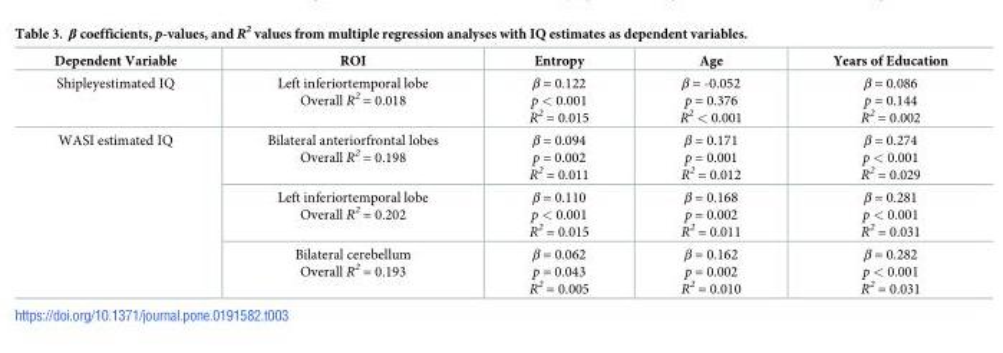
<table><thead><tr><td>Dependent Variable</td><td>ROI</td><td>Entropy</td><td>Age</td><td>Years of Education</td></tr></thead><tbody><tr><td>Shipleyestimated IQ</td><td>Left inferiortemporal lobe Overall R<sup>2</sup> = 0.018</td><td>β = 0.122 p &lt; 0.001 R<sup>2</sup> = 0.015</td><td>β = -0.052 p = 0.376 R<sup>2</sup> &lt; 0.001</td><td>β = 0.086 p = 0.144 R<sup>2</sup> = 0.002</td></tr><tr><td rowspan="3">WASI estimated IQ</td><td>Bilateral anteriorfrontal lobes Overall R<sup>2</sup> = 0.198</td><td>β = 0.094 p = 0.002 R<sup>2</sup> = 0.011</td><td>β = 0.171 p = 0.001 R<sup>2</sup> = 0.012</td><td>β = 0.274 p &lt; 0.001 R<sup>2</sup> = 0.029</td></tr><tr><td>Left inferiortemporal lobe Overall R<sup>2</sup> = 0.202</td><td>β = 0.110 p &lt; 0.001 R<sup>2</sup> = 0.015</td><td>β = 0.168 p = 0.002 R<sup>2</sup> = 0.011</td><td>β = 0.281 p &lt; 0.001 R<sup>2</sup> = 0.031</td></tr><tr><td>Bilateral cerebellum Overall R<sup>2</sup> = 0.193</td><td>β = 0.062 p = 0.043 R<sup>2</sup> = 0.005</td><td>β = 0.162 p = 0.002 R<sup>2</sup> = 0.010</td><td>β = 0.282 p &lt; 0.001 R<sup>2</sup> = 0.031</td></tr></tbody></table>